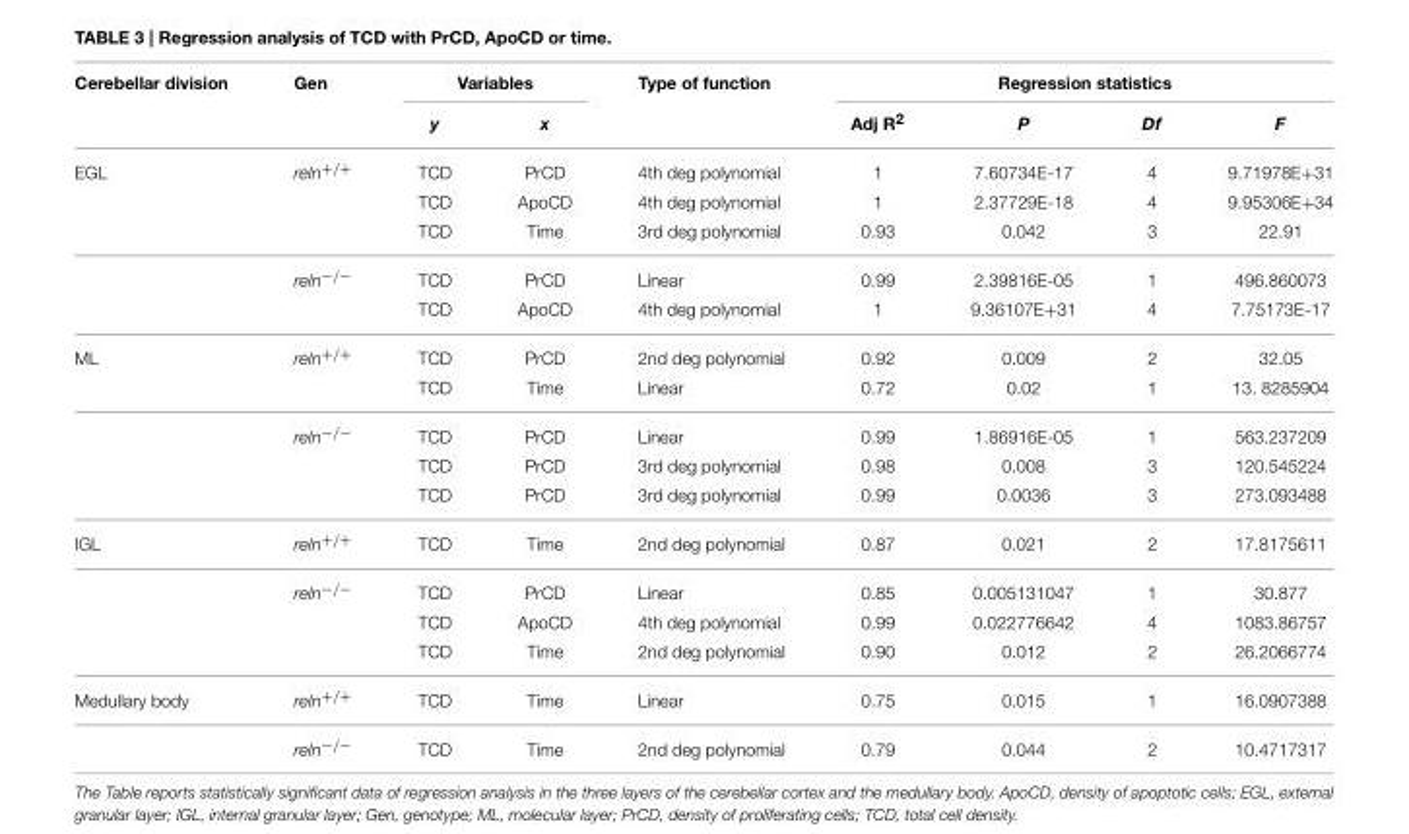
<table><thead><tr><td rowspan="2">Cerebellar division</td><td rowspan="2">Gen</td><td colspan="2">Variables</td><td rowspan="2">Type of function</td><td colspan="4">Regression statistics</td></tr><tr><td>y</td><td>x</td><td>Adj R<sup>2</sup></td><td>P</td><td>Df</td><td>F</td></tr></thead><tbody><tr><td rowspan="5">EGL</td><td>reln+/+</td><td>TCD</td><td>PrCD</td><td>4th deg polynomial</td><td>1</td><td>7.60734E-17</td><td>4</td><td>9.71978E+31</td></tr><tr><td></td><td>TCD</td><td>ApoCD</td><td>4th deg polynomial</td><td>1</td><td>2.37729E-18</td><td>4</td><td>9.95306E+34</td></tr><tr><td></td><td>TCD</td><td>Time</td><td>3rd deg polynomial</td><td>0.93</td><td>0.042</td><td>3</td><td>22.91</td></tr><tr><td>reln−/−</td><td>TCD</td><td>PrCD</td><td>Linear</td><td>0.99</td><td>2.39816E-05</td><td>1</td><td>496.860073</td></tr><tr><td></td><td>TCD</td><td>ApoCD</td><td>4th deg polynomial</td><td>1</td><td>9.36107E+31</td><td>4</td><td>7.75173E-17</td></tr><tr><td rowspan="5">ML</td><td>reln+/+</td><td>TCD</td><td>PrCD</td><td>2nd deg polynomial</td><td>0.92</td><td>0.009</td><td>2</td><td>32.05</td></tr><tr><td></td><td>TCD</td><td>Time</td><td>Linear</td><td>0.72</td><td>0.02</td><td>1</td><td>13. 8285904</td></tr><tr><td>reln−/−</td><td>TCD</td><td>PrCD</td><td>Linear</td><td>0.99</td><td>1.86916E-05</td><td>1</td><td>563.237209</td></tr><tr><td></td><td>TCD</td><td>PrCD</td><td>3rd deg polynomial</td><td>0.98</td><td>0.008</td><td>3</td><td>120.545224</td></tr><tr><td></td><td>TCD</td><td>PrCD</td><td>3rd deg polynomial</td><td>0.99</td><td>0.0036</td><td>3</td><td>273.093488</td></tr><tr><td rowspan="4">IGL</td><td>reln+/+</td><td>TCD</td><td>Time</td><td>2nd deg polynomial</td><td>0.87</td><td>0.021</td><td>2</td><td>17.8175611</td></tr><tr><td>reln−/−</td><td>TCD</td><td>PrCD</td><td>Linear</td><td>0.85</td><td>0.005131047</td><td>1</td><td>30.877</td></tr><tr><td></td><td>TCD</td><td>ApoCD</td><td>4th deg polynomial</td><td>0.99</td><td>0.022776642</td><td>4</td><td>1083.86757</td></tr><tr><td></td><td>TCD</td><td>Time</td><td>2nd deg polynomial</td><td>0.90</td><td>0.012</td><td>2</td><td>26.2066774</td></tr><tr><td rowspan="2">Medullary body</td><td>reln+/+</td><td>TCD</td><td>Time</td><td>Linear</td><td>0.75</td><td>0.015</td><td>1</td><td>16.0907388</td></tr><tr><td>reln−/−</td><td>TCD</td><td>Time</td><td>2nd deg polynomial</td><td>0.79</td><td>0.044</td><td>2</td><td>10.4717317</td></tr></tbody></table>